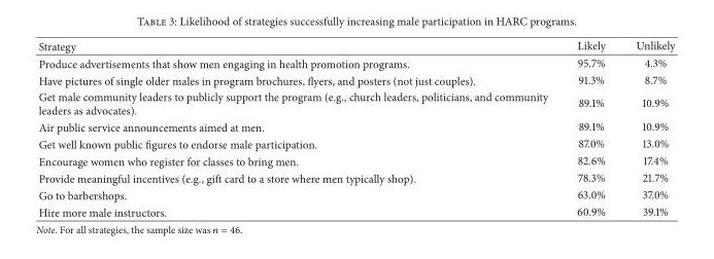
<table><thead><tr><td>Strategy</td><td>Likely</td><td>Unlikely</td></tr></thead><tbody><tr><td>Produce advertisements that show men engaging in health promotion programs.</td><td>95.7%</td><td>4.3%</td></tr><tr><td>Have pictures of single older males in program brochures, flyers, and posters (not just couples).</td><td>91.3%</td><td>8.7%</td></tr><tr><td>Get male community leaders to publicly support the program (e.g., church leaders, politicians, and community leaders as advocates).</td><td>89.1%</td><td>10.9%</td></tr><tr><td>Air public service announcements aimed at men.</td><td>89.1%</td><td>10.9%</td></tr><tr><td>Get well known public figures to endorse male participation.</td><td>87.0%</td><td>13.0%</td></tr><tr><td>Encourage women who register for classes to bring men.</td><td>82.6%</td><td>17.4%</td></tr><tr><td>Provide meaningful incentives (e.g., gift card to a store where men typically shop).</td><td>78.3%</td><td>21.7%</td></tr><tr><td>Go to barbershops.</td><td>63.0%</td><td>37.0%</td></tr><tr><td>Hire more male instructors.</td><td>60.9%</td><td>39.1%</td></tr></tbody></table>